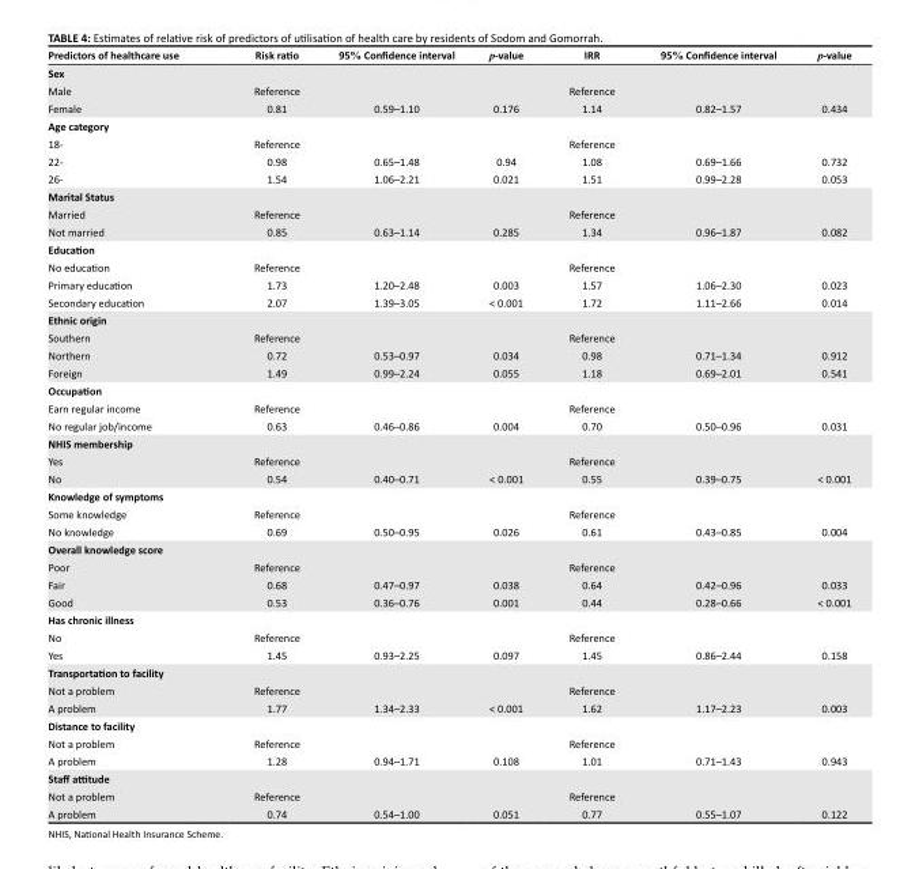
<table><thead><tr><td>Predictors of healthcare use</td><td>Risk ratio</td><td>95% Confidence interval</td><td>p-value</td><td>IRR</td><td>95% Confidence interval</td><td>p-value</td></tr></thead><tbody><tr><td colspan="7">Sex</td></tr><tr><td>Male</td><td>Reference</td><td></td><td></td><td>Reference</td><td></td><td></td></tr><tr><td>Female</td><td>0.81</td><td>0.59–1.10</td><td>0.176</td><td>1.14</td><td>0.82–1.57</td><td>0.434</td></tr><tr><td colspan="7">Age category</td></tr><tr><td>18-</td><td>Reference</td><td></td><td></td><td>Reference</td><td></td><td></td></tr><tr><td>22-</td><td>0.98</td><td>0.65–1.48</td><td>0.94</td><td>1.08</td><td>0.69–1.66</td><td>0.732</td></tr><tr><td>26-</td><td>1.54</td><td>1.06–2.21</td><td>0.021</td><td>1.51</td><td>0.99–2.28</td><td>0.053</td></tr><tr><td colspan="7">Marital Status</td></tr><tr><td>Married</td><td>Reference</td><td></td><td></td><td>Reference</td><td></td><td></td></tr><tr><td>Not married</td><td>0.85</td><td>0.63–1.14</td><td>0.285</td><td>1.34</td><td>0.96–1.87</td><td>0.082</td></tr><tr><td colspan="7">Education</td></tr><tr><td>No education</td><td>Reference</td><td></td><td></td><td>Reference</td><td></td><td></td></tr><tr><td>Primary education</td><td>1.73</td><td>1.20–2.48</td><td>0.003</td><td>1.57</td><td>1.06–2.30</td><td>0.023</td></tr><tr><td>Secondary education</td><td>2.07</td><td>1.39–3.05</td><td>&lt; 0.001</td><td>1.72</td><td>1.11–2.66</td><td>0.014</td></tr><tr><td colspan="7">Ethnic origin</td></tr><tr><td>Southern</td><td>Reference</td><td></td><td></td><td>Reference</td><td></td><td></td></tr><tr><td>Northern</td><td>0.72</td><td>0.53–0.97</td><td>0.034</td><td>0.98</td><td>0.71–1.34</td><td>0.912</td></tr><tr><td>Foreign</td><td>1.49</td><td>0.99–2.24</td><td>0.055</td><td>1.18</td><td>0.69–2.01</td><td>0.541</td></tr><tr><td colspan="7">Occupation</td></tr><tr><td>Earn regular income</td><td>Reference</td><td></td><td></td><td>Reference</td><td></td><td></td></tr><tr><td>No regular job/income</td><td>0.63</td><td>0.46–0.86</td><td>0.004</td><td>0.70</td><td>0.50–0.96</td><td>0.031</td></tr><tr><td colspan="7">NHIS membership</td></tr><tr><td>Yes</td><td>Reference</td><td></td><td></td><td>Reference</td><td></td><td></td></tr><tr><td>No</td><td>0.54</td><td>0.40–0.71</td><td>&lt; 0.001</td><td>0.55</td><td>0.39–0.75</td><td>&lt; 0.001</td></tr><tr><td colspan="7">Knowledge of symptoms</td></tr><tr><td>Some knowledge</td><td>Reference</td><td></td><td></td><td>Reference</td><td></td><td></td></tr><tr><td>No knowledge</td><td>0.69</td><td>0.50–0.95</td><td>0.026</td><td>0.61</td><td>0.43–0.85</td><td>0.004</td></tr><tr><td colspan="7">Overall knowledge score</td></tr><tr><td>Poor</td><td>Reference</td><td></td><td></td><td>Reference</td><td></td><td></td></tr><tr><td>Fair</td><td>0.68</td><td>0.47–0.97</td><td>0.038</td><td>0.64</td><td>0.42–0.96</td><td>0.033</td></tr><tr><td>Good</td><td>0.53</td><td>0.36–0.76</td><td>0.001</td><td>0.44</td><td>0.28–0.66</td><td>&lt; 0.001</td></tr><tr><td colspan="7">Has chronic illness</td></tr><tr><td>No</td><td>Reference</td><td></td><td></td><td>Reference</td><td></td><td></td></tr><tr><td>Yes</td><td>1.45</td><td>0.93–2.25</td><td>0.097</td><td>1.45</td><td>0.86–2.44</td><td>0.158</td></tr><tr><td colspan="7">Transportation to facility</td></tr><tr><td>Not a problem</td><td>Reference</td><td></td><td></td><td>Reference</td><td></td><td></td></tr><tr><td>A problem</td><td>1.77</td><td>1.34–2.33</td><td>&lt; 0.001</td><td>1.62</td><td>1.17–2.23</td><td>0.003</td></tr><tr><td colspan="7">Distance to facility</td></tr><tr><td>Not a problem</td><td>Reference</td><td></td><td></td><td>Reference</td><td></td><td></td></tr><tr><td>A problem</td><td>1.28</td><td>0.94–1.71</td><td>0.108</td><td>1.01</td><td>0.71–1.43</td><td>0.943</td></tr><tr><td colspan="7">Staff attitude</td></tr><tr><td>Not a problem</td><td>Reference</td><td></td><td></td><td>Reference</td><td></td><td></td></tr><tr><td>A problem</td><td>0.74</td><td>0.54–1.00</td><td>0.051</td><td>0.77</td><td>0.55–1.07</td><td>0.122</td></tr></tbody></table>